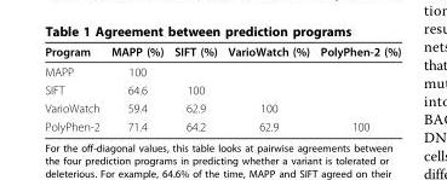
<table><thead><tr><td>Program</td><td>MAPP (%)</td><td>SIFT (%)</td><td>VarioWatch (%)</td><td>PolyPhen-2 (%)</td></tr></thead><tbody><tr><td>MAPP</td><td>100</td><td></td><td></td><td></td></tr><tr><td>SIFT</td><td>64.6</td><td>100</td><td></td><td></td></tr><tr><td>VarioWatch</td><td>59.4</td><td>62.9</td><td>100</td><td></td></tr><tr><td>PolyPhen-2</td><td>71.4</td><td>64.2</td><td>62.9</td><td>100</td></tr></tbody></table>